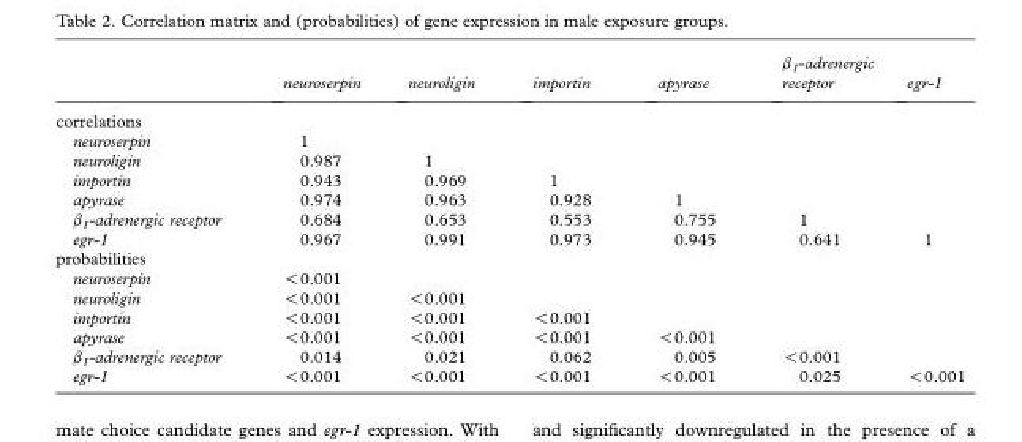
<table><thead><tr><td></td><td>neuroserpin</td><td>neuroligin</td><td>importin</td><td>apyrase</td><td>β1-adrenergic receptor</td><td>egr-1</td></tr></thead><tbody><tr><td colspan="7">correlations</td></tr><tr><td>neuroserpin</td><td>1</td><td></td><td></td><td></td><td></td><td></td></tr><tr><td>neuroligin</td><td>0.987</td><td>1</td><td></td><td></td><td></td><td></td></tr><tr><td>importin</td><td>0.943</td><td>0.969</td><td>1</td><td></td><td></td><td></td></tr><tr><td>apyrase</td><td>0.974</td><td>0.963</td><td>0.928</td><td>1</td><td></td><td></td></tr><tr><td>β1-adrenergic receptor</td><td>0.684</td><td>0.653</td><td>0.553</td><td>0.755</td><td>1</td><td></td></tr><tr><td>egr-1</td><td>0.967</td><td>0.991</td><td>0.973</td><td>0.945</td><td>0.641</td><td>1</td></tr><tr><td colspan="7">probabilities</td></tr><tr><td>neuroserpin</td><td>&lt;0.001</td><td></td><td></td><td></td><td></td><td></td></tr><tr><td>neuroligin</td><td>&lt;0.001</td><td>&lt;0.001</td><td></td><td></td><td></td><td></td></tr><tr><td>importin</td><td>&lt;0.001</td><td>&lt;0.001</td><td>&lt;0.001</td><td></td><td></td><td></td></tr><tr><td>apyrase</td><td>&lt;0.001</td><td>&lt;0.001</td><td>&lt;0.001</td><td>&lt;0.001</td><td></td><td></td></tr><tr><td>β1-adrenergic receptor</td><td>0.014</td><td>0.021</td><td>0.062</td><td>0.005</td><td>&lt;0.001</td><td></td></tr><tr><td>egr-1</td><td>&lt;0.001</td><td>&lt;0.001</td><td>&lt;0.001</td><td>&lt;0.001</td><td>0.025</td><td>&lt;0.001</td></tr></tbody></table>